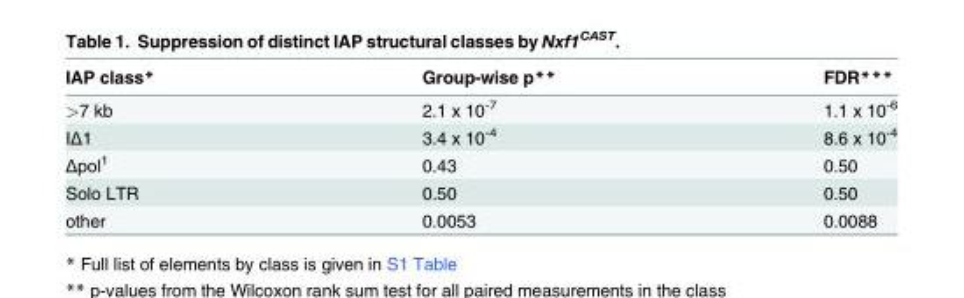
<table><thead><tr><td>IAP class*</td><td>Group-wise p**</td><td>FDR***</td></tr></thead><tbody><tr><td>&gt;7 kb</td><td>2.1 x 10<sup>-7</sup></td><td>1.1 x 10<sup>-6</sup></td></tr><tr><td>IΔ1</td><td>3.4 x 10<sup>-4</sup></td><td>8.6 x 10<sup>-4</sup></td></tr><tr><td>Δpol<sup>1</sup></td><td>0.43</td><td>0.50</td></tr><tr><td>Solo LTR</td><td>0.50</td><td>0.50</td></tr><tr><td>other</td><td>0.0053</td><td>0.0088</td></tr></tbody></table>